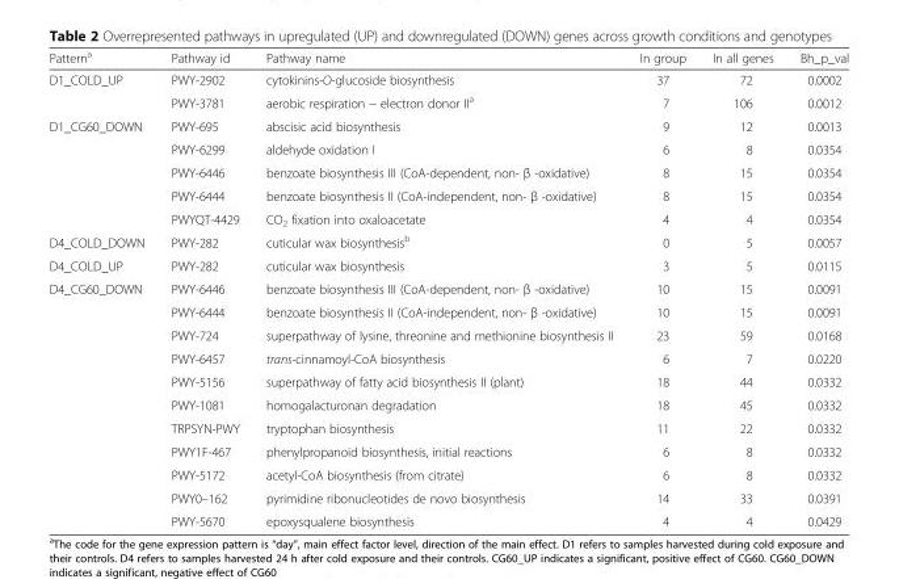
<table><thead><tr><td>Pattern<sup>a</sup></td><td>Pathway id</td><td>Pathway name</td><td>In group</td><td>In all genes</td><td>Bh_p_val</td></tr></thead><tbody><tr><td rowspan="2">D1_COLD_UP</td><td>PWY-2902</td><td>cytokinins-O-glucoside biosynthesis</td><td>37</td><td>72</td><td>0.0002</td></tr><tr><td>PWY-3781</td><td>aerobic respiration -- electron donor II<sup>a</sup></td><td>7</td><td>106</td><td>0.0012</td></tr><tr><td rowspan="5">D1_CG60_DOWN</td><td>PWY-695</td><td>abscisic acid biosynthesis</td><td>9</td><td>12</td><td>0.0013</td></tr><tr><td>PWY-6299</td><td>aldehyde oxidation I</td><td>6</td><td>8</td><td>0.0354</td></tr><tr><td>PWY-6446</td><td>benzoate biosynthesis III (CoA-dependent, non- β -oxidative)</td><td>8</td><td>15</td><td>0.0354</td></tr><tr><td>PWY-6444</td><td>benzoate biosynthesis II (CoA-independent, non- β -oxidative)</td><td>8</td><td>15</td><td>0.0354</td></tr><tr><td>PWYQT-4429</td><td>CO<sub>2</sub> fixation into oxaloacetate</td><td>4</td><td>4</td><td>0.0354</td></tr><tr><td>D4_COLD_DOWN</td><td>PWY-282</td><td>cuticular wax biosynthesis<sup>b</sup></td><td>0</td><td>5</td><td>0.0057</td></tr><tr><td>D4_COLD_UP</td><td>PWY-282</td><td>cuticular wax biosynthesis</td><td>3</td><td>5</td><td>0.0115</td></tr><tr><td rowspan="11">D4_CG60_DOWN</td><td>PWY-6446</td><td>benzoate biosynthesis III (CoA-dependent, non- β -oxidative)</td><td>10</td><td>15</td><td>0.0091</td></tr><tr><td>PWY-6444</td><td>benzoate biosynthesis II (CoA-independent, non- β -oxidative)</td><td>10</td><td>15</td><td>0.0091</td></tr><tr><td>PWY-724</td><td>superpathway of lysine, threonine and methionine biosynthesis II</td><td>23</td><td>59</td><td>0.0168</td></tr><tr><td>PWY-6457</td><td>trans-cinnamoyl-CoA biosynthesis</td><td>6</td><td>7</td><td>0.0220</td></tr><tr><td>PWY-5156</td><td>superpathway of fatty acid biosynthesis II (plant)</td><td>18</td><td>44</td><td>0.0332</td></tr><tr><td>PWY-1081</td><td>homogalacturonan degradation</td><td>18</td><td>45</td><td>0.0332</td></tr><tr><td>TRPSYN-PWY</td><td>tryptophan biosynthesis</td><td>11</td><td>22</td><td>0.0332</td></tr><tr><td>PWY1F-467</td><td>phenylpropanoid biosynthesis, initial reactions</td><td>6</td><td>8</td><td>0.0332</td></tr><tr><td>PWY-5172</td><td>acetyl-CoA biosynthesis (from citrate)</td><td>6</td><td>8</td><td>0.0332</td></tr><tr><td>PWY0–162</td><td>pyrimidine ribonucleotides de novo biosynthesis</td><td>14</td><td>33</td><td>0.0391</td></tr><tr><td>PWY-5670</td><td>epoxysqualene biosynthesis</td><td>4</td><td>4</td><td>0.0429</td></tr></tbody></table>